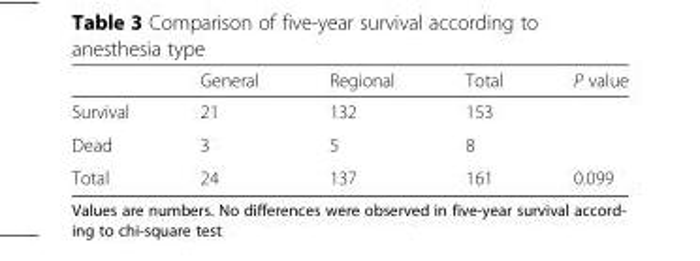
<table><thead><tr><td></td><td>General</td><td>Regional</td><td>Total</td><td>P value</td></tr></thead><tbody><tr><td>Survival</td><td>21</td><td>132</td><td>153</td><td></td></tr><tr><td>Dead</td><td>3</td><td>5</td><td>8</td><td></td></tr><tr><td>Total</td><td>24</td><td>137</td><td>161</td><td>0.099</td></tr></tbody></table>